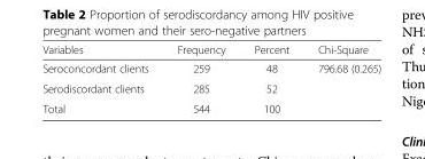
<table><thead><tr><td>Variables</td><td>Frequency</td><td>Percent</td><td>Chi-Square</td></tr></thead><tbody><tr><td>Seroconcordant clients</td><td>259</td><td>48</td><td>796.68 (0.265)</td></tr><tr><td>Serodiscordant clients</td><td>285</td><td>52</td><td></td></tr><tr><td>Total</td><td>544</td><td>100</td><td></td></tr></tbody></table>